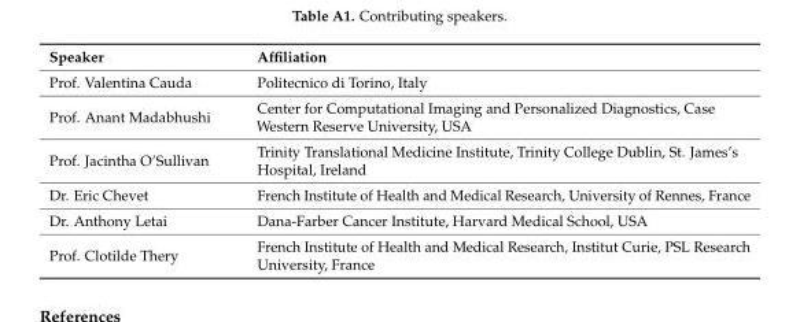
<table><thead><tr><td>Speaker</td><td>Affiliation</td></tr></thead><tbody><tr><td>Prof. Valentina Cauda</td><td>Politecnico di Torino, Italy</td></tr><tr><td>Prof. Anant Madabhushi</td><td>Center for Computational Imaging and Personalized Diagnostics, Case Western Reserve University, USA</td></tr><tr><td>Prof. Jacintha O’Sullivan</td><td>Trinity Translational Medicine Institute, Trinity College Dublin, St. James’s Hospital, Ireland</td></tr><tr><td>Dr. Eric Chevet</td><td>French Institute of Health and Medical Research, University of Rennes, France</td></tr><tr><td>Dr. Anthony Letai</td><td>Dana-Farber Cancer Institute, Harvard Medical School, USA</td></tr><tr><td>Prof. Clotilde Thery</td><td>French Institute of Health and Medical Research, Institut Curie, PSL Research University, France</td></tr></tbody></table>